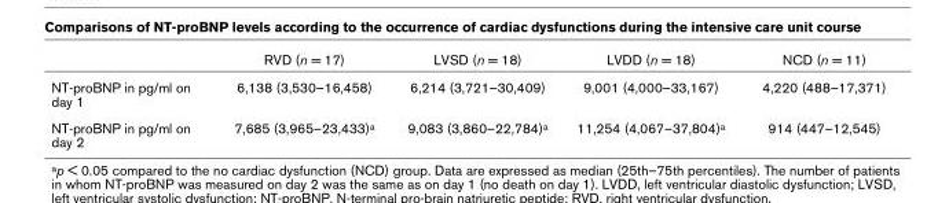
<table><thead><tr><td></td><td>RVD (n = 17)</td><td>LVSD (n = 18)</td><td>LVDD (n = 18)</td><td>NCD (n = 11)</td></tr></thead><tbody><tr><td>NT-proBNP in pg/ml on day 1</td><td>6,138 (3,530–16,458)</td><td>6,214 (3,721–30,409)</td><td>9,001 (4,000–33,167)</td><td>4,220 (488–17,371)</td></tr><tr><td>NT-proBNP in pg/ml on day 2</td><td>7,685 (3,965–23,433)<sup>a</sup></td><td>9,083 (3,860–22,784)<sup>a</sup></td><td>11,254 (4,067–37,804)<sup>a</sup></td><td>914 (447–12,545)</td></tr></tbody></table>